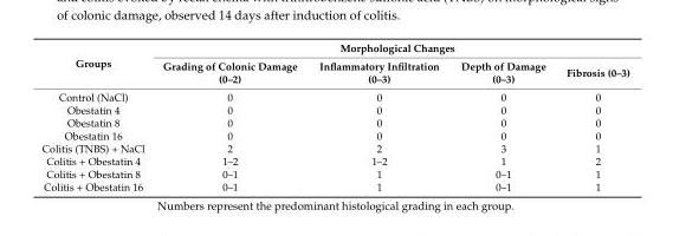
<table><thead><tr><td rowspan="2">Groups</td><td colspan="4">Morphological Changes</td></tr><tr><td>Grading of Colonic Damage (0–2)</td><td>Inflammatory Infiltration (0–3)</td><td>Depth of Damage (0–3)</td><td>Fibrosis (0–3)</td></tr></thead><tbody><tr><td>Control (NaCl)</td><td>0</td><td>0</td><td>0</td><td>0</td></tr><tr><td>Obestatin 4</td><td>0</td><td>0</td><td>0</td><td>0</td></tr><tr><td>Obestatin 8</td><td>0</td><td>0</td><td>0</td><td>0</td></tr><tr><td>Obestatin 16</td><td>0</td><td>0</td><td>0</td><td>0</td></tr><tr><td>Colitis (TNBS) + NaCl</td><td>2</td><td>2</td><td>3</td><td>1</td></tr><tr><td>Colitis + Obestatin 4</td><td>1–2</td><td>1–2</td><td>1</td><td>2</td></tr><tr><td>Colitis + Obestatin 8</td><td>0–1</td><td>1</td><td>0–1</td><td>1</td></tr><tr><td>Colitis + Obestatin 16</td><td>0–1</td><td>1</td><td>0–1</td><td>1</td></tr></tbody></table>